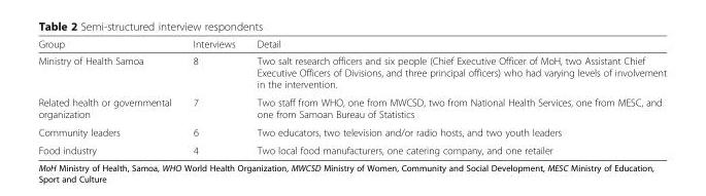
<table><thead><tr><td>Group</td><td>Interviews</td><td>Detail</td></tr></thead><tbody><tr><td>Ministry of Health Samoa</td><td>8</td><td>Two salt research officers and six people (Chief Executive Officer of MoH, two Assistant Chief Executive Officers of Divisions, and three principal officers) who had varying levels of involvement in the intervention.</td></tr><tr><td>Related health or governmental organization</td><td>7</td><td>Two staff from WHO, one from MWCSD, two from National Health Services, one from MESC, and one from Samoan Bureau of Statistics</td></tr><tr><td>Community leaders</td><td>6</td><td>Two educators, two television and/or radio hosts, and two youth leaders</td></tr><tr><td>Food industry</td><td>4</td><td>Two local food manufacturers, one catering company, and one retailer</td></tr></tbody></table>